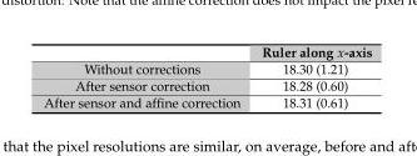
<table><thead><tr><td></td><td>Ruler along x-axis</td></tr></thead><tbody><tr><td>Without corrections</td><td>18.30 (1.21)</td></tr><tr><td>After sensor correction</td><td>18.28 (0.60)</td></tr><tr><td>After sensor and affine correction</td><td>18.31 (0.61)</td></tr></tbody></table>